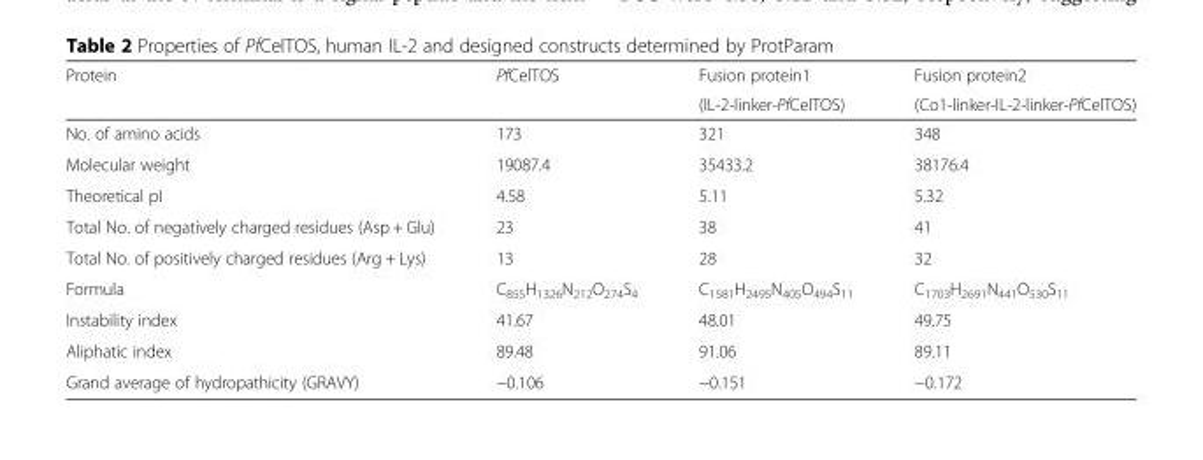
<table><thead><tr><td rowspan="2">Protein</td><td rowspan="2">PfCelTOS</td><td rowspan="2">Fusion protein1 (IL-2-linker-PfCelTOS)</td><td rowspan="2">Fusion protein2 (Co1-linker-IL-2-linker-PfCelTOS)</td></tr><tr></tr></thead><tbody><tr><td>No. of amino acids</td><td>173</td><td>321</td><td>348</td></tr><tr><td>Molecular weight</td><td>19087.4</td><td>35433.2</td><td>38176.4</td></tr><tr><td>Theoretical pI</td><td>4.58</td><td>5.11</td><td>5.32</td></tr><tr><td>Total No. of negatively charged residues (Asp + Glu)</td><td>23</td><td>38</td><td>41</td></tr><tr><td>Total No. of positively charged residues (Arg + Lys)</td><td>13</td><td>28</td><td>32</td></tr><tr><td>Formula</td><td>C<sub>855</sub>H<sub>1326</sub>N<sub>212</sub>O<sub>274</sub>S<sub>4</sub></td><td>C<sub>1581</sub>H<sub>2495</sub>N<sub>405</sub>O<sub>494</sub>S<sub>11</sub></td><td>C<sub>1703</sub>H<sub>2691</sub>N<sub>441</sub>O<sub>530</sub>S<sub>11</sub></td></tr><tr><td>Instability index</td><td>41.67</td><td>48.01</td><td>49.75</td></tr><tr><td>Aliphatic index</td><td>89.48</td><td>91.06</td><td>89.11</td></tr><tr><td>Grand average of hydropathicity (GRAVY)</td><td>−0.106</td><td>−0.151</td><td>−0.172</td></tr></tbody></table>